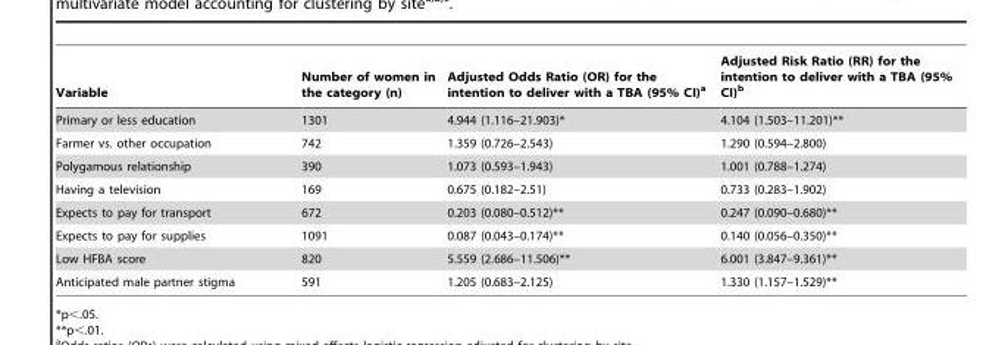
<table><thead><tr><td>Variable</td><td>Number of women in the category (n)</td><td>Adjusted Odds Ratio (OR) for the intention to deliver with a TBA (95% CI)<sup>a</sup></td><td>Adjusted Risk Ratio (RR) for the intention to deliver with a TBA (95% CI)<sup>b</sup></td></tr></thead><tbody><tr><td>Primary or less education</td><td>1301</td><td>4.944 (1.116–21.903)*</td><td>4.104 (1.503–11.201)**</td></tr><tr><td>Farmer vs. other occupation</td><td>742</td><td>1.359 (0.726–2.543)</td><td>1.290 (0.594–2.800)</td></tr><tr><td>Polygamous relationship</td><td>390</td><td>1.073 (0.593–1.943)</td><td>1.001 (0.788–1.274)</td></tr><tr><td>Having a television</td><td>169</td><td>0.675 (0.182–2.51)</td><td>0.733 (0.283–1.902)</td></tr><tr><td>Expects to pay for transport</td><td>672</td><td>0.203 (0.080–0.512)**</td><td>0.247 (0.090–0.680)**</td></tr><tr><td>Expects to pay for supplies</td><td>1091</td><td>0.087 (0.043–0.174)**</td><td>0.140 (0.056–0.350)**</td></tr><tr><td>Low HFBA score</td><td>820</td><td>5.559 (2.686–11.506)**</td><td>6.001 (3.847–9.361)**</td></tr><tr><td>Anticipated male partner stigma</td><td>591</td><td>1.205 (0.683–2.125)</td><td>1.330 (1.157–1.529)**</td></tr></tbody></table>